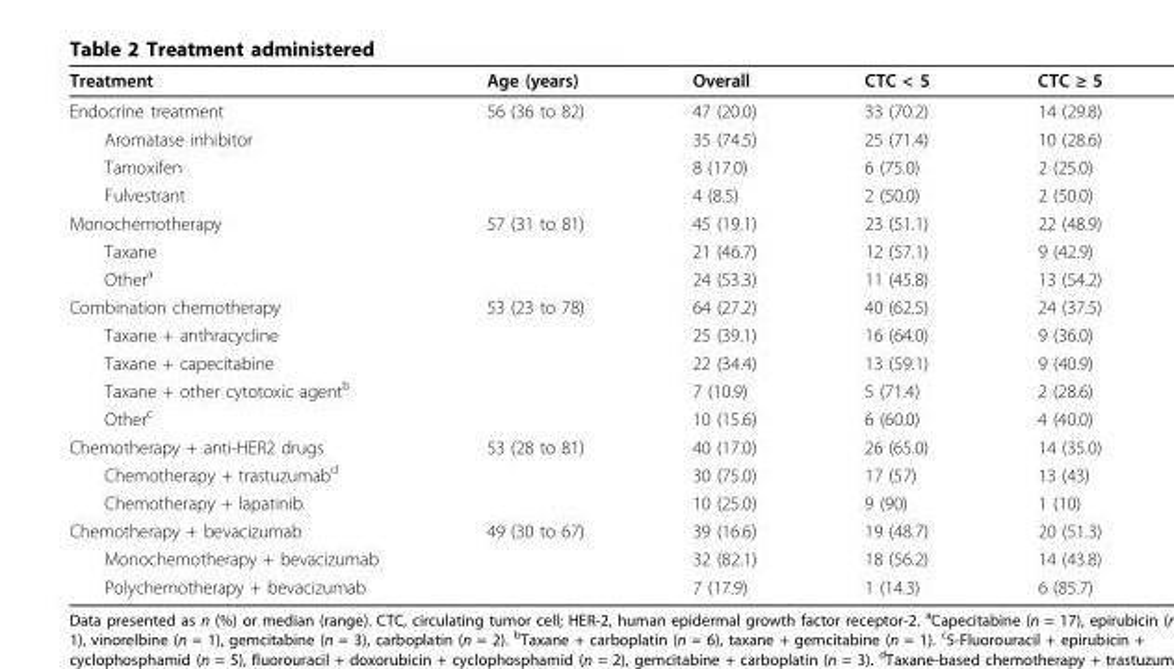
<table><thead><tr><td>Treatment</td><td>Age (years)</td><td>Overall</td><td>CTC &lt; 5</td><td>CTC ≥ 5</td></tr></thead><tbody><tr><td>Endocrine treatment</td><td>56 (36 to 82)</td><td>47 (20.0)</td><td>33 (70.2)</td><td>14 (29.8)</td></tr><tr><td>Aromatase inhibitor</td><td></td><td>35 (74.5)</td><td>25 (71.4)</td><td>10 (28.6)</td></tr><tr><td>Tamoxifen</td><td></td><td>8 (17.0)</td><td>6 (75.0)</td><td>2 (25.0)</td></tr><tr><td>Fulvestrant</td><td></td><td>4 (8.5)</td><td>2 (50.0)</td><td>2 (50.0)</td></tr><tr><td>Monochemotherapy</td><td>57 (31 to 81)</td><td>45 (19.1)</td><td>23 (51.1)</td><td>22 (48.9)</td></tr><tr><td>Taxane</td><td></td><td>21 (46.7)</td><td>12 (57.1)</td><td>9 (42.9)</td></tr><tr><td>Other<sup>a</sup></td><td></td><td>24 (53.3)</td><td>11 (45.8)</td><td>13 (54.2)</td></tr><tr><td>Combination chemotherapy</td><td>53 (23 to 78)</td><td>64 (27.2)</td><td>40 (62.5)</td><td>24 (37.5)</td></tr><tr><td>Taxane + anthracycline</td><td></td><td>25 (39.1)</td><td>16 (64.0)</td><td>9 (36.0)</td></tr><tr><td>Taxane + capecitabine</td><td></td><td>22 (34.4)</td><td>13 (59.1)</td><td>9 (40.9)</td></tr><tr><td>Taxane + other cytotoxic agent<sup>b</sup></td><td></td><td>7 (10.9)</td><td>5 (71.4)</td><td>2 (28.6)</td></tr><tr><td>Other<sup>c</sup></td><td></td><td>10 (15.6)</td><td>6 (60.0)</td><td>4 (40.0)</td></tr><tr><td>Chemotherapy + anti-HER2 drugs</td><td>53 (28 to 81)</td><td>40 (17.0)</td><td>26 (65.0)</td><td>14 (35.0)</td></tr><tr><td>Chemotherapy + trastuzumab<sup>d</sup></td><td></td><td>30 (75.0)</td><td>17 (57)</td><td>13 (43)</td></tr><tr><td>Chemotherapy + lapatinib</td><td></td><td>10 (25.0)</td><td>9 (90)</td><td>1 (10)</td></tr><tr><td>Chemotherapy + bevacizumab</td><td>49 (30 to 67)</td><td>39 (16.6)</td><td>19 (48.7)</td><td>20 (51.3)</td></tr><tr><td>Monochemotherapy + bevacizumab</td><td></td><td>32 (82.1)</td><td>18 (56.2)</td><td>14 (43.8)</td></tr><tr><td>Polychemotherapy + bevacizumab</td><td></td><td>7 (17.9)</td><td>1 (14.3)</td><td>6 (85.7)</td></tr></tbody></table>